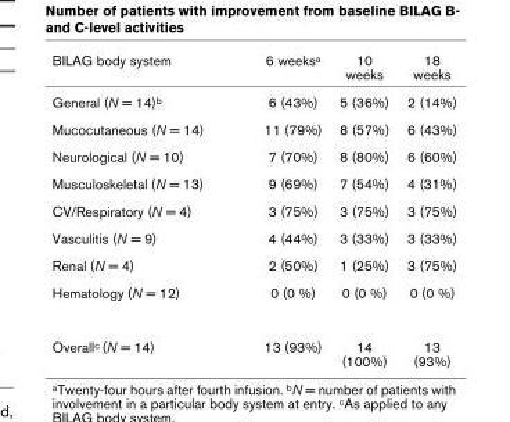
<table><thead><tr><td>BILAG body system</td><td>6 weeksa</td><td>10 weeks</td><td>18 weeks</td></tr></thead><tbody><tr><td>General (N = 14)b</td><td>6 (43%)</td><td>5 (36%)</td><td>2 (14%)</td></tr><tr><td>Mucocutaneous (N = 14)</td><td>11 (79%)</td><td>8 (57%)</td><td>6 (43%)</td></tr><tr><td>Neurological (N = 10)</td><td>7 (70%)</td><td>8 (80%)</td><td>6 (60%)</td></tr><tr><td>Musculoskeletal (N = 13)</td><td>9 (69%)</td><td>7 (54%)</td><td>4 (31%)</td></tr><tr><td>CV/Respiratory (N = 4)</td><td>3 (75%)</td><td>3 (75%)</td><td>3 (75%)</td></tr><tr><td>Vasculitis (N = 9)</td><td>4 (44%)</td><td>3 (33%)</td><td>3 (33%)</td></tr><tr><td>Renal (N = 4)</td><td>2 (50%)</td><td>1 (25%)</td><td>3 (75%)</td></tr><tr><td>Hematology (N = 12)</td><td>0 (0 %)</td><td>0 (0 %)</td><td>0 (0 %)</td></tr><tr><td>Overallc (N = 14)</td><td>13 (93%)</td><td>14 (100%)</td><td>13 (93%)</td></tr></tbody></table>